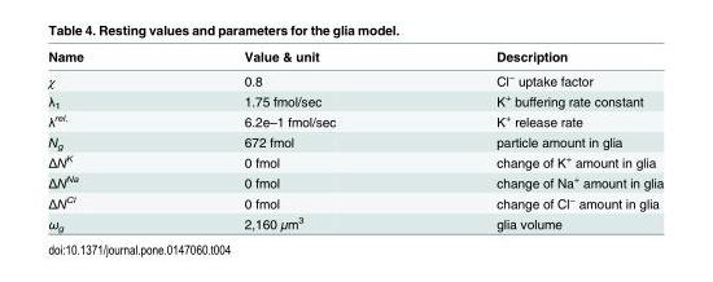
<table><thead><tr><td>Name</td><td>Value &amp; unit</td><td>Description</td></tr></thead><tbody><tr><td>χ</td><td>0.8</td><td>Cl<sup>−</sup> uptake factor</td></tr><tr><td>λ<sub>1</sub></td><td>1.75 fmol/sec</td><td>K<sup>+</sup> buffering rate constant</td></tr><tr><td>λ<sup>rel.</sup></td><td>6.2e–1 fmol/sec</td><td>K<sup>+</sup> release rate</td></tr><tr><td>N<sub>g</sub></td><td>672 fmol</td><td>particle amount in glia</td></tr><tr><td>ΔN<sup>K</sup></td><td>0 fmol</td><td>change of K<sup>+</sup> amount in glia</td></tr><tr><td>ΔN<sup>Na</sup></td><td>0 fmol</td><td>change of Na<sup>+</sup> amount in glia</td></tr><tr><td>ΔN<sup>Cl</sup></td><td>0 fmol</td><td>change of Cl<sup>−</sup> amount in glia</td></tr><tr><td>ω<sub>g</sub></td><td>2,160 μm<sup>3</sup></td><td>glia volume</td></tr></tbody></table>